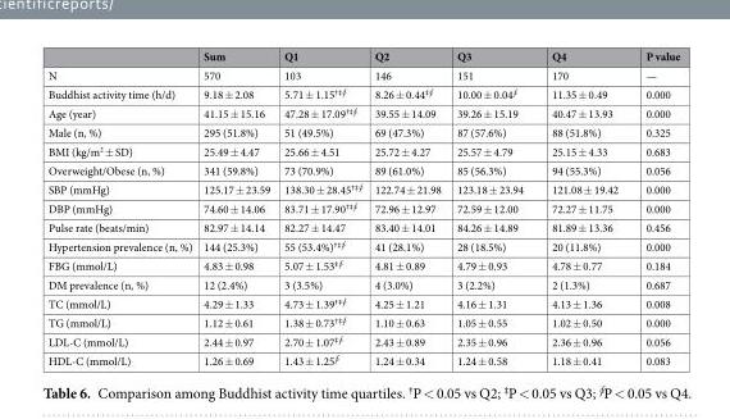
<table><thead><tr><td></td><td>Sum</td><td>Q1</td><td>Q2</td><td>Q3</td><td>Q4</td><td>P value</td></tr></thead><tbody><tr><td>N</td><td>570</td><td>103</td><td>146</td><td>151</td><td>170</td><td>—</td></tr><tr><td>Buddhist activity time (h/d)</td><td>9.18 ± 2.08</td><td>5.71 ± 1.15<sup>†‡∮</sup></td><td>8.26 ± 0.44<sup>‡∮</sup></td><td>10.00 ± 0.04<sup>∮</sup></td><td>11.35 ± 0.49</td><td>0.000</td></tr><tr><td>Age (year)</td><td>41.15 ± 15.16</td><td>47.28 ± 17.09<sup>†‡∮</sup></td><td>39.55 ± 14.09</td><td>39.26 ± 15.19</td><td>40.47 ± 13.93</td><td>0.000</td></tr><tr><td>Male (n, %)</td><td>295 (51.8%)</td><td>51 (49.5%)</td><td>69 (47.3%)</td><td>87 (57.6%)</td><td>88 (51.8%)</td><td>0.325</td></tr><tr><td>BMI (kg/m<sup>2</sup> ± SD)</td><td>25.49 ± 4.47</td><td>25.66 ± 4.51</td><td>25.72 ± 4.27</td><td>25.57 ± 4.79</td><td>25.15 ± 4.33</td><td>0.683</td></tr><tr><td>Overweight/Obese (n, %)</td><td>341 (59.8%)</td><td>73 (70.9%)</td><td>89 (61.0%)</td><td>85 (56.3%)</td><td>94 (55.3%)</td><td>0.056</td></tr><tr><td>SBP (mmHg)</td><td>125.17 ± 23.59</td><td>138.30 ± 28.45<sup>†‡∮</sup></td><td>122.74 ± 21.98</td><td>123.18 ± 23.94</td><td>121.08 ± 19.42</td><td>0.000</td></tr><tr><td>DBP (mmHg)</td><td>74.60 ± 14.06</td><td>83.71 ± 17.90<sup>†‡∮</sup></td><td>72.96 ± 12.97</td><td>72.59 ± 12.00</td><td>72.27 ± 11.75</td><td>0.000</td></tr><tr><td>Pulse rate (beats/min)</td><td>82.97 ± 14.14</td><td>82.27 ± 14.47</td><td>83.40 ± 14.01</td><td>84.26 ± 14.89</td><td>81.89 ± 13.36</td><td>0.456</td></tr><tr><td>Hypertension prevalence (n, %)</td><td>144 (25.3%)</td><td>55 (53.4%)<sup>†‡∮</sup></td><td>41 (28.1%)</td><td>28 (18.5%)</td><td>20 (11.8%)</td><td>0.000</td></tr><tr><td>FBG (mmol/L)</td><td>4.83 ± 0.98</td><td>5.07 ± 1.53<sup>‡∮</sup></td><td>4.81 ± 0.89</td><td>4.79 ± 0.93</td><td>4.78 ± 0.77</td><td>0.184</td></tr><tr><td>DM prevalence (n, %)</td><td>12 (2.4%)</td><td>3 (3.5%)</td><td>4 (3.0%)</td><td>3 (2.2%)</td><td>2 (1.3%)</td><td>0.687</td></tr><tr><td>TC (mmol/L)</td><td>4.29 ± 1.33</td><td>4.73 ± 1.39<sup>†‡∮</sup></td><td>4.25 ± 1.21</td><td>4.16 ± 1.31</td><td>4.13 ± 1.36</td><td>0.008</td></tr><tr><td>TG (mmol/L)</td><td>1.12 ± 0.61</td><td>1.38 ± 0.73<sup>†‡∮</sup></td><td>1.10 ± 0.63</td><td>1.05 ± 0.55</td><td>1.02 ± 0.50</td><td>0.000</td></tr><tr><td>LDL-C (mmol/L)</td><td>2.44 ± 0.97</td><td>2.70 ± 1.07<sup>‡∮</sup></td><td>2.43 ± 0.89</td><td>2.35 ± 0.96</td><td>2.36 ± 0.96</td><td>0.056</td></tr><tr><td>HDL-C (mmol/L)</td><td>1.26 ± 0.69</td><td>1.43 ± 1.25<sup>∮</sup></td><td>1.24 ± 0.34</td><td>1.24 ± 0.58</td><td>1.18 ± 0.41</td><td>0.083</td></tr></tbody></table>